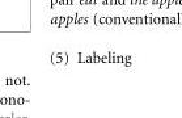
<table><tbody><tr><td>(5)</td><td>Labeling</td></tr></tbody></table>